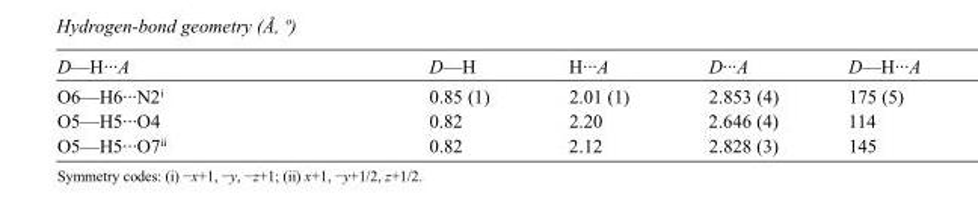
<table><tbody><tr><td>D—H···A</td><td>D—H</td><td>H···A</td><td>D···A</td><td>D—H···A</td></tr><tr><td>O6—H6···N2<sup>i</sup></td><td>0.85 (1)</td><td>2.01 (1)</td><td>2.853 (4)</td><td>175 (5)</td></tr><tr><td>O5—H5···O4</td><td>0.82</td><td>2.20</td><td>2.646 (4)</td><td>114</td></tr><tr><td>O5—H5···O7<sup>ii</sup></td><td>0.82</td><td>2.12</td><td>2.828 (3)</td><td>145</td></tr></tbody></table>